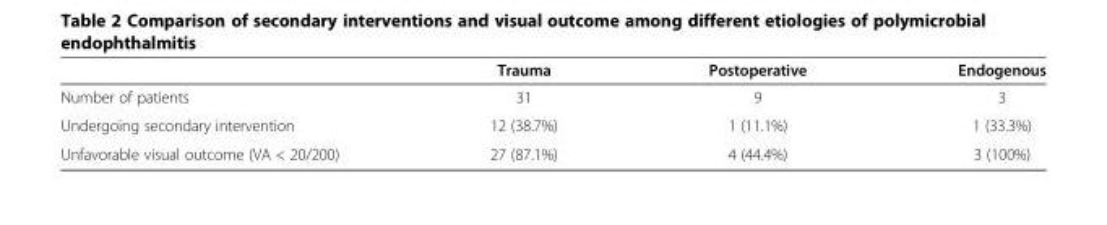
<table><thead><tr><td></td><td>Trauma</td><td>Postoperative</td><td>Endogenous</td></tr></thead><tbody><tr><td>Number of patients</td><td>31</td><td>9</td><td>3</td></tr><tr><td>Undergoing secondary intervention</td><td>12 (38.7%)</td><td>1 (11.1%)</td><td>1 (33.3%)</td></tr><tr><td>Unfavorable visual outcome (VA &lt; 20/200)</td><td>27 (87.1%)</td><td>4 (44.4%)</td><td>3 (100%)</td></tr></tbody></table>